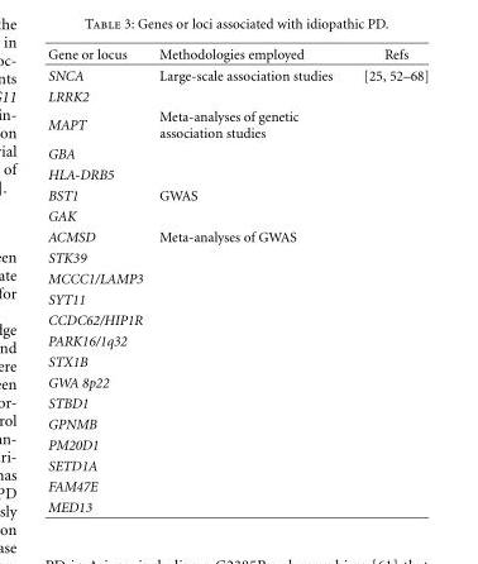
<table><thead><tr><td>Gene or locus</td><td>Methodologies employed</td><td>Refs</td></tr></thead><tbody><tr><td>SNCA</td><td>Large-scale association studies</td><td>[25, 52–68]</td></tr><tr><td colspan="3">LRRK2</td></tr><tr><td>MAPT</td><td>Meta-analyses of genetic association studies</td><td></td></tr><tr><td colspan="3">GBA</td></tr><tr><td colspan="3">HLA-DRB5</td></tr><tr><td>BST1</td><td>GWAS</td><td></td></tr><tr><td colspan="3">GAK</td></tr><tr><td>ACMSD</td><td>Meta-analyses of GWAS</td><td></td></tr><tr><td colspan="3">STK39</td></tr><tr><td colspan="3">MCCC1/LAMP3</td></tr><tr><td colspan="3">SYT11</td></tr><tr><td colspan="3">CCDC62/HIP1R</td></tr><tr><td colspan="3">PARK16/1q32</td></tr><tr><td colspan="3">STX1B</td></tr><tr><td colspan="3">GWA 8p22</td></tr><tr><td colspan="3">STBD1</td></tr><tr><td colspan="3">GPNMB</td></tr><tr><td colspan="3">PM20D1</td></tr><tr><td colspan="3">SETD1A</td></tr><tr><td colspan="3">FAM47E</td></tr><tr><td>MED13</td><td></td><td></td></tr></tbody></table>